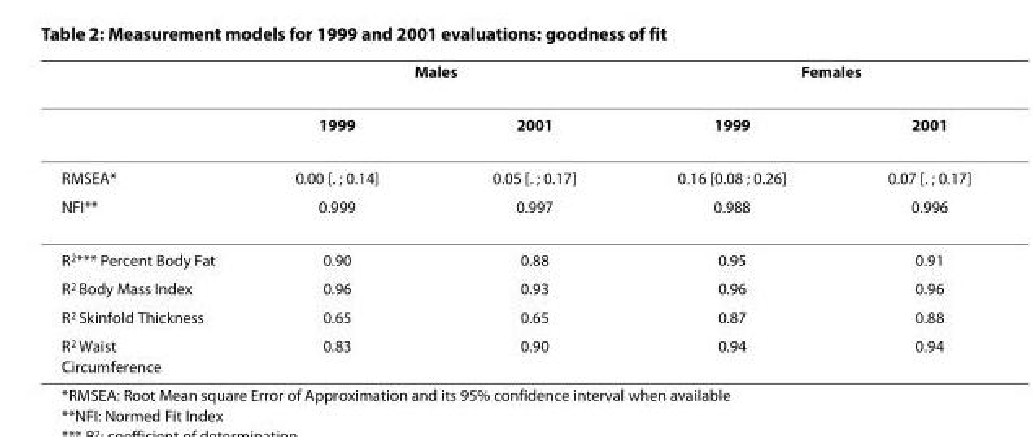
<table><thead><tr><td rowspan="2"></td><td colspan="2">Males</td><td colspan="2">Females</td></tr><tr><td>1999</td><td>2001</td><td>1999</td><td>2001</td></tr></thead><tbody><tr><td>RMSEA*</td><td>0.00 [. ; 0.14]</td><td>0.05 [. ; 0.17]</td><td>0.16 [0.08 ; 0.26]</td><td>0.07 [. ; 0.17]</td></tr><tr><td>NFI**</td><td>0.999</td><td>0.997</td><td>0.988</td><td>0.996</td></tr><tr><td>R<sup>2</sup>*** Percent Body Fat</td><td>0.90</td><td>0.88</td><td>0.95</td><td>0.91</td></tr><tr><td>R<sup>2</sup> Body Mass Index</td><td>0.96</td><td>0.93</td><td>0.96</td><td>0.96</td></tr><tr><td>R<sup>2</sup> Skinfold Thickness</td><td>0.65</td><td>0.65</td><td>0.87</td><td>0.88</td></tr><tr><td>R<sup>2</sup> Waist Circumference</td><td>0.83</td><td>0.90</td><td>0.94</td><td>0.94</td></tr></tbody></table>